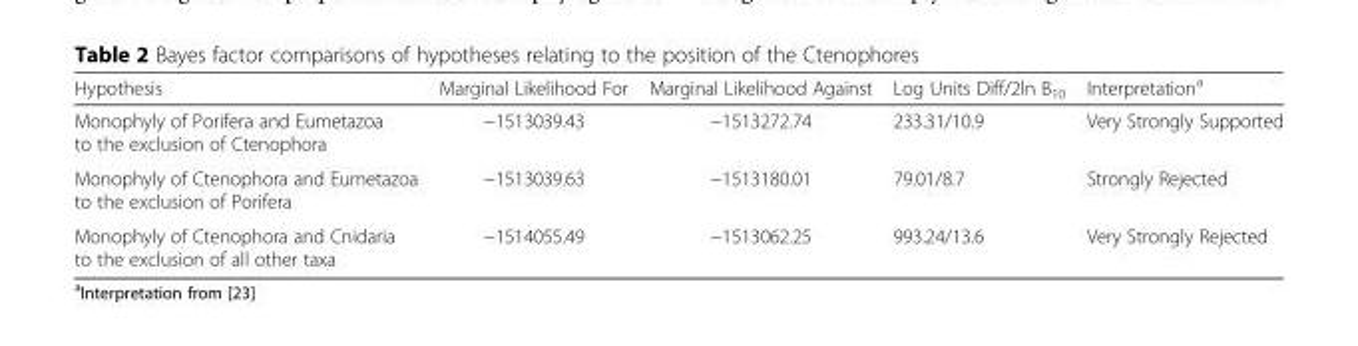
<table><thead><tr><td>Hypothesis</td><td>Marginal Likelihood For</td><td>Marginal Likelihood Against</td><td>Log Units Diff/2ln B<sub>10</sub></td><td>Interpretation<sup>a</sup></td></tr></thead><tbody><tr><td>Monophyly of Porifera and Eumetazoa to the exclusion of Ctenophora</td><td>−1513039.43</td><td>−1513272.74</td><td>233.31/10.9</td><td>Very Strongly Supported</td></tr><tr><td>Monophyly of Ctenophora and Eumetazoa to the exclusion of Porifera</td><td>−1513039.63</td><td>−1513180.01</td><td>79.01/8.7</td><td>Strongly Rejected</td></tr><tr><td>Monophyly of Ctenophora and Cnidaria to the exclusion of all other taxa</td><td>−1514055.49</td><td>−1513062.25</td><td>993.24/13.6</td><td>Very Strongly Rejected</td></tr></tbody></table>